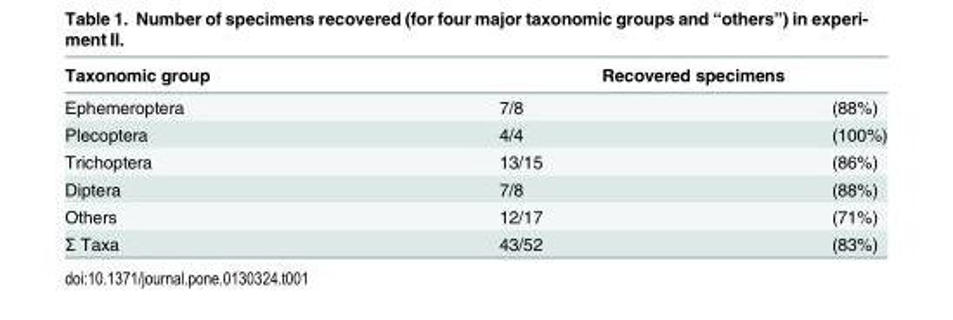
<table><thead><tr><td rowspan="2">Taxonomic group Ephemeroptera</td><td colspan="2">Recovered specimens</td></tr><tr><td>7/8</td><td>(88%)</td></tr></thead><tbody><tr><td>Plecoptera</td><td>4/4</td><td>(100%)</td></tr><tr><td>Trichoptera</td><td>13/15</td><td>(86%)</td></tr><tr><td>Diptera</td><td>7/8</td><td>(88%)</td></tr><tr><td>Others</td><td>12/17</td><td>(71%)</td></tr><tr><td>Σ Taxa</td><td>43/52</td><td>(83%)</td></tr></tbody></table>